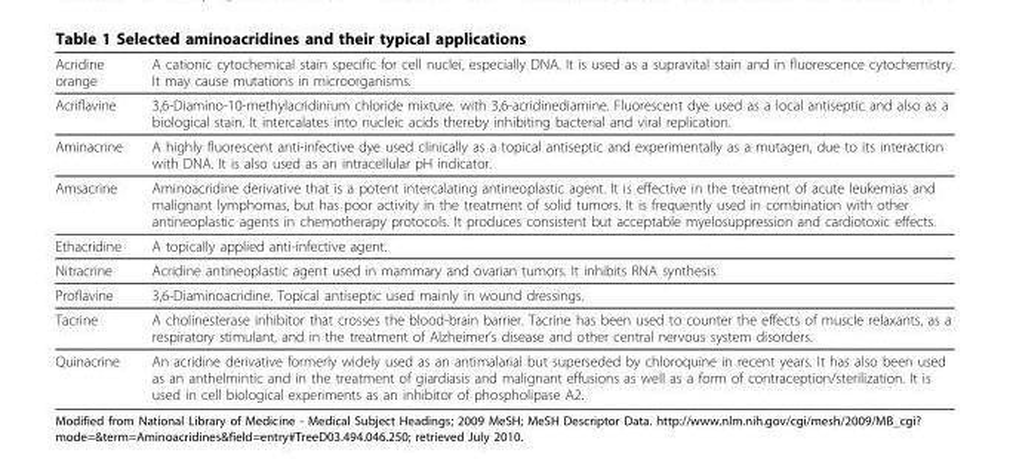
<table><thead><tr><td>Acridine orange</td><td>A cationic cytochemical stain specific for cell nuclei, especially DNA. It is used as a supravital stain and in fluorescence cytochemistry. It may cause mutations in microorganisms.</td></tr></thead><tbody><tr><td>Acriflavine</td><td>3,6-Diamino-10-methylacridinium chloride mixture. with 3,6-acridinediamine. Fluorescent dye used as a local antiseptic and also as a biological stain. It intercalates into nucleic acids thereby inhibiting bacterial and viral replication.</td></tr><tr><td>Aminacrine</td><td>A highly fluorescent anti-infective dye used clinically as a topical antiseptic and experimentally as a mutagen, due to its interaction with DNA. It is also used as an intracellular pH indicator.</td></tr><tr><td>Amsacrine</td><td>Aminoacridine derivative that is a potent intercalating antineoplastic agent. It is effective in the treatment of acute leukemias and malignant lymphomas, but has poor activity in the treatment of solid tumors. It is frequently used in combination with other antineoplastic agents in chemotherapy protocols. It produces consistent but acceptable myelosuppression and cardiotoxic effects.</td></tr><tr><td>Ethacridine</td><td>A topically applied anti-infective agent.</td></tr><tr><td>Nitracrine</td><td>Acridine antineoplastic agent used in mammary and ovarian tumors. It inhibits RNA synthesis.</td></tr><tr><td>Proflavine</td><td>3,6-Diaminoacridine. Topical antiseptic used mainly in wound dressings.</td></tr><tr><td>Tacrine</td><td>A cholinesterase inhibitor that crosses the blood-brain barrier. Tacrine has been used to counter the effects of muscle relaxants, as a respiratory stimulant, and in the treatment of Alzheimer’s disease and other central nervous system disorders.</td></tr><tr><td>Quinacrine</td><td>An acridine derivative formerly widely used as an antimalarial but superseded by chloroquine in recent years. It has also been used as an anthelmintic and in the treatment of giardiasis and malignant effusions as well as a form of contraception/sterilization. It is used in cell biological experiments as an inhibitor of phospholipase A2.</td></tr></tbody></table>